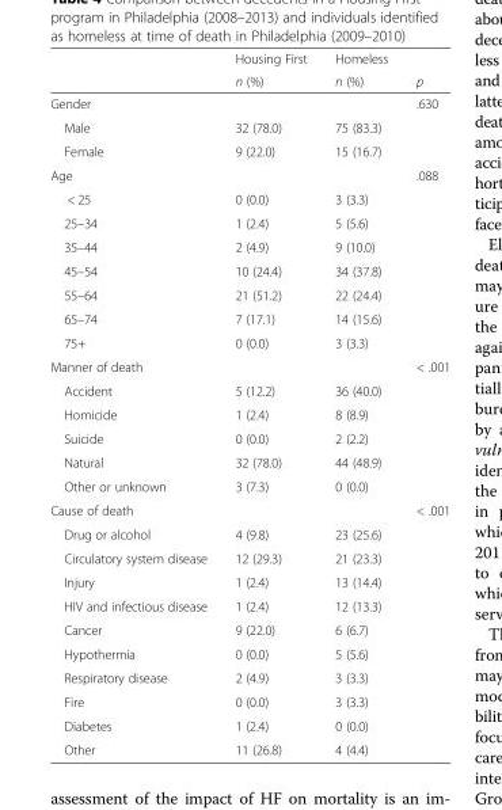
<table><thead><tr><td rowspan="2"></td><td rowspan="2">Housing First n (%)</td><td rowspan="2">Homeless n (%)</td><td rowspan="2">p</td></tr><tr></tr></thead><tbody><tr><td>Gender</td><td></td><td></td><td>.630</td></tr><tr><td>Male</td><td>32 (78.0)</td><td>75 (83.3)</td><td></td></tr><tr><td>Female</td><td>9 (22.0)</td><td>15 (16.7)</td><td></td></tr><tr><td>Age</td><td></td><td></td><td>.088</td></tr><tr><td>&lt; 25</td><td>0 (0.0)</td><td>3 (3.3)</td><td></td></tr><tr><td>25–34</td><td>1 (2.4)</td><td>5 (5.6)</td><td></td></tr><tr><td>35–44</td><td>2 (4.9)</td><td>9 (10.0)</td><td></td></tr><tr><td>45–54</td><td>10 (24.4)</td><td>34 (37.8)</td><td></td></tr><tr><td>55–64</td><td>21 (51.2)</td><td>22 (24.4)</td><td></td></tr><tr><td>65–74</td><td>7 (17.1)</td><td>14 (15.6)</td><td></td></tr><tr><td>75+</td><td>0 (0.0)</td><td>3 (3.3)</td><td></td></tr><tr><td>Manner of death</td><td></td><td></td><td>&lt; .001</td></tr><tr><td>Accident</td><td>5 (12.2)</td><td>36 (40.0)</td><td></td></tr><tr><td>Homicide</td><td>1 (2.4)</td><td>8 (8.9)</td><td></td></tr><tr><td>Suicide</td><td>0 (0.0)</td><td>2 (2.2)</td><td></td></tr><tr><td>Natural</td><td>32 (78.0)</td><td>44 (48.9)</td><td></td></tr><tr><td>Other or unknown</td><td>3 (7.3)</td><td>0 (0.0)</td><td></td></tr><tr><td>Cause of death</td><td></td><td></td><td>&lt; .001</td></tr><tr><td>Drug or alcohol</td><td>4 (9.8)</td><td>23 (25.6)</td><td></td></tr><tr><td>Circulatory system disease</td><td>12 (29.3)</td><td>21 (23.3)</td><td></td></tr><tr><td>Injury</td><td>1 (2.4)</td><td>13 (14.4)</td><td></td></tr><tr><td>HIV and infectious disease</td><td>1 (2.4)</td><td>12 (13.3)</td><td></td></tr><tr><td>Cancer</td><td>9 (22.0)</td><td>6 (6.7)</td><td></td></tr><tr><td>Hypothermia</td><td>0 (0.0)</td><td>5 (5.6)</td><td></td></tr><tr><td>Respiratory disease</td><td>2 (4.9)</td><td>3 (3.3)</td><td></td></tr><tr><td>Fire</td><td>0 (0.0)</td><td>3 (3.3)</td><td></td></tr><tr><td>Diabetes</td><td>1 (2.4)</td><td>0 (0.0)</td><td></td></tr><tr><td>Other</td><td>11 (26.8)</td><td>4 (4.4)</td><td></td></tr></tbody></table>